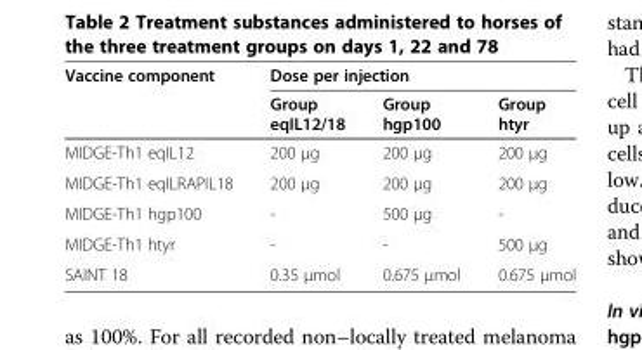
<table><thead><tr><td rowspan="2">Vaccine component</td><td colspan="3">Dose per injection</td></tr><tr><td>Group eqIL12/18</td><td>Group hgp100</td><td>Group htyr</td></tr></thead><tbody><tr><td>MIDGE-Th1 eqIL12</td><td>200 μg</td><td>200 μg</td><td>200 μg</td></tr><tr><td>MIDGE-Th1 eqILRAPIL18</td><td>200 μg</td><td>200 μg</td><td>200 μg</td></tr><tr><td>MIDGE-Th1 hgp100</td><td>-</td><td>500 μg</td><td>-</td></tr><tr><td>MIDGE-Th1 htyr</td><td>-</td><td>-</td><td>500 μg</td></tr><tr><td>SAINT 18</td><td>0.35 μmol</td><td>0.675 μmol</td><td>0.675 μmol</td></tr></tbody></table>